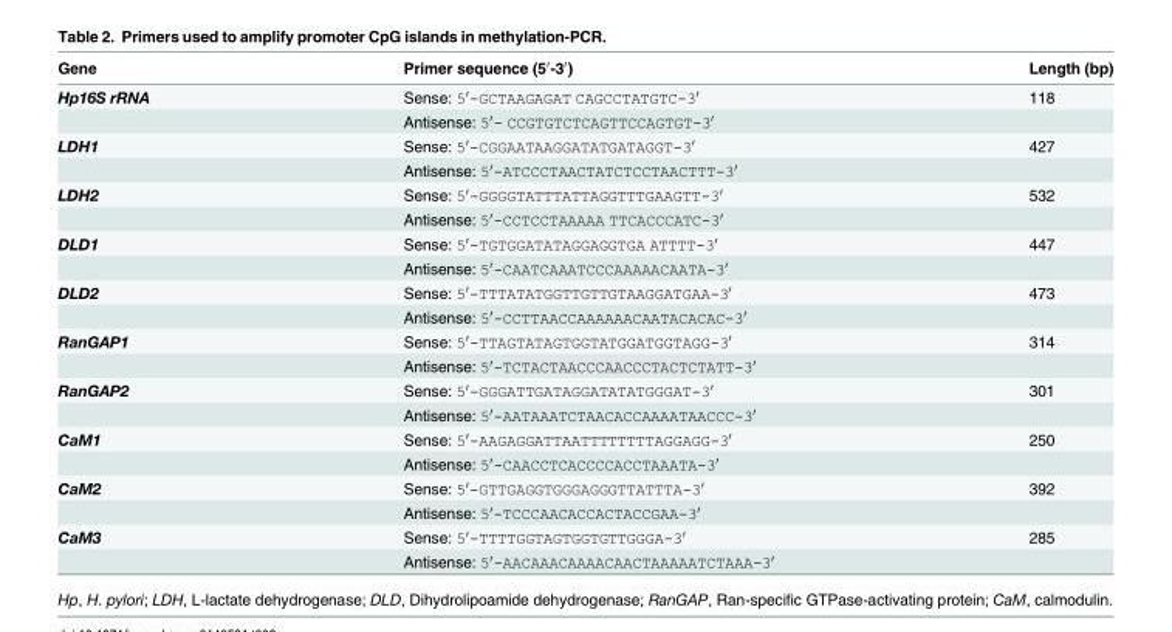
<table><thead><tr><td>Gene</td><td>Primer sequence (5′-3′)</td><td>Length (bp)</td></tr></thead><tbody><tr><td rowspan="2">Hp16S rRNA</td><td>Sense: 5′-GCTAAGAGAT CAGCCTATGTC-3′</td><td>118</td></tr><tr><td>Antisense: 5′- CCGTGTCTCAGTTCCAGTGT-3′</td><td></td></tr><tr><td rowspan="2">LDH1</td><td>Sense: 5′-CGGAATAAGGATATGATAGGT-3′</td><td>427</td></tr><tr><td>Antisense: 5′-ATCCCTAACTATCTCCTAACTTT-3′</td><td></td></tr><tr><td rowspan="2">LDH2</td><td>Sense: 5′-GGGGTATTTATTAGGTTTGAAGTT-3′</td><td>532</td></tr><tr><td>Antisense: 5′-CCTCCTAAAAA TTCACCCATC-3′</td><td></td></tr><tr><td rowspan="2">DLD1</td><td>Sense: 5′-TGTGGATATAGGAGGTGA ATTTT-3′</td><td>447</td></tr><tr><td>Antisense: 5′-CAATCAAATCCCAAAAACAATA-3′</td><td></td></tr><tr><td rowspan="2">DLD2</td><td>Sense: 5′-TTTATATGGTTGTTGTAAGGATGAA-3′</td><td>473</td></tr><tr><td>Antisense: 5′-CCTTAACCAAAAAACAATACACAC-3′</td><td></td></tr><tr><td rowspan="2">RanGAP1</td><td>Sense: 5′-TTAGTATAGTGGTATGGATGGTAGG-3′</td><td>314</td></tr><tr><td>Antisense: 5′-TCTACTAACCCAACCCTACTCTATT-3′</td><td></td></tr><tr><td rowspan="2">RanGAP2</td><td>Sense: 5′-GGGATTGATAGGATATATGGGAT-3′</td><td>301</td></tr><tr><td>Antisense: 5′-AATAAATCTAACACCAAAATAACCC-3′</td><td></td></tr><tr><td rowspan="2">CaM1</td><td>Sense: 5′-AAGAGGATTAATTTTTTTTAGGAGG-3′</td><td>250</td></tr><tr><td>Antisense: 5′-CAACCTCACCCCACCTAAATA-3′</td><td></td></tr><tr><td rowspan="2">CaM2</td><td>Sense: 5′-GTTGAGGTGGGAGGGTTATTTA-3′</td><td>392</td></tr><tr><td>Antisense: 5′-TCCCAACACCACTACCGAA-3′</td><td></td></tr><tr><td rowspan="2">CaM3</td><td>Sense: 5′-TTTTGGTAGTGGTGTTGGGA-3′</td><td>285</td></tr><tr><td>Antisense: 5′-AACAAACAAAACAACTAAAAATCTAAA-3′</td><td></td></tr></tbody></table>